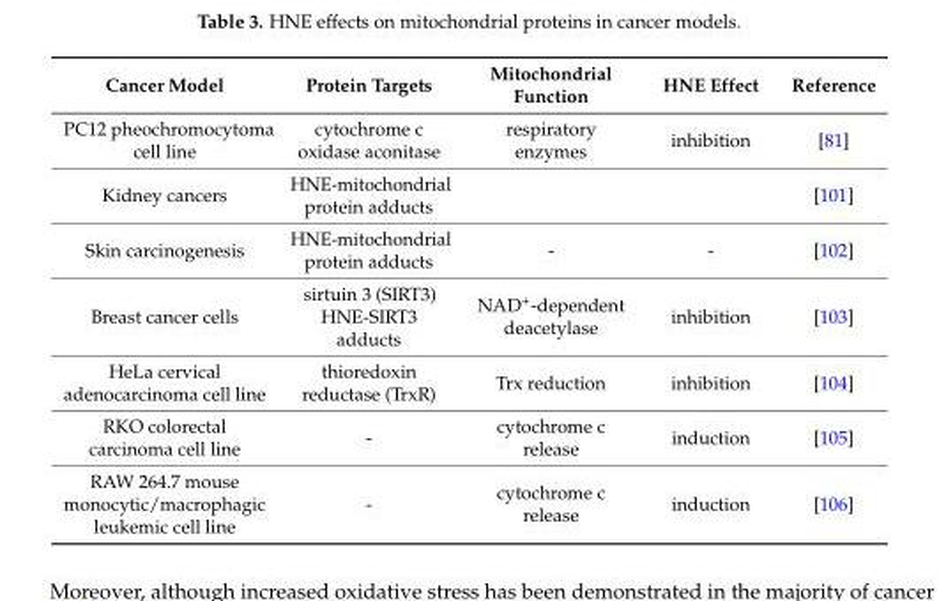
<table><thead><tr><td>Cancer Model</td><td>Protein Targets</td><td>Mitochondrial Function</td><td>HNE Effect</td><td>Reference</td></tr></thead><tbody><tr><td>PC12 pheochromocytoma cell line</td><td>cytochrome c oxidase aconitase</td><td>respiratory enzymes</td><td>inhibition</td><td>[81]</td></tr><tr><td>Kidney cancers</td><td>HNE-mitochondrial protein adducts</td><td></td><td></td><td>[101]</td></tr><tr><td>Skin carcinogenesis</td><td>HNE-mitochondrial protein adducts</td><td>-</td><td>-</td><td>[102]</td></tr><tr><td>Breast cancer cells</td><td>sirtuin 3 (SIRT3) HNE-SIRT3 adducts</td><td>NAD<sup>+</sup>-dependent deacetylase</td><td>inhibition</td><td>[103]</td></tr><tr><td>HeLa cervical adenocarcinoma cell line</td><td>thioredoxin reductase (TrxR)</td><td>Trx reduction</td><td>inhibition</td><td>[104]</td></tr><tr><td>RKO colorectal carcinoma cell line</td><td>-</td><td>cytochrome c release</td><td>induction</td><td>[105]</td></tr><tr><td>RAW 264.7 mouse monocytic/macrophagic leukemic cell line</td><td>-</td><td>cytochrome c release</td><td>induction</td><td>[106]</td></tr></tbody></table>